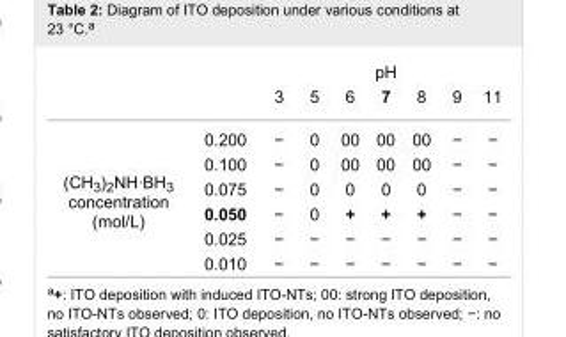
<table><thead><tr><td rowspan="2"></td><td rowspan="2"></td><td colspan="7">pH</td></tr><tr><td>3</td><td>5</td><td>6</td><td>7</td><td>8</td><td>9</td><td>11</td></tr></thead><tbody><tr><td rowspan="6">(CH<sub>3</sub>)<sub>2</sub>NH·BH<sub>3</sub> concentration (mol/L)</td><td>0.200</td><td>−</td><td>0</td><td>00</td><td>00</td><td>00</td><td>−</td><td>−</td></tr><tr><td>0.100</td><td>−</td><td>0</td><td>00</td><td>00</td><td>00</td><td>−</td><td>−</td></tr><tr><td>0.075</td><td>−</td><td>0</td><td>0</td><td>0</td><td>0</td><td>−</td><td>−</td></tr><tr><td>0.050</td><td>−</td><td>0</td><td>+</td><td>+</td><td>+</td><td>−</td><td>−</td></tr><tr><td>0.025</td><td>−</td><td>−</td><td>−</td><td>−</td><td>−</td><td>−</td><td>−</td></tr><tr><td>0.010</td><td>−</td><td>−</td><td>−</td><td>−</td><td>−</td><td>−</td><td>−</td></tr></tbody></table>